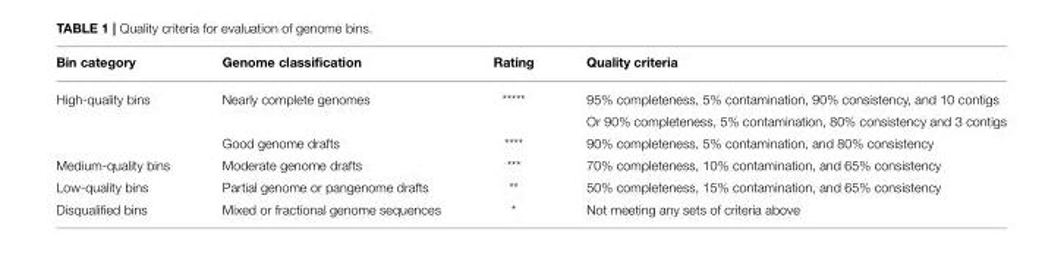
<table><thead><tr><td>Bin category</td><td>Genome classification</td><td>Rating</td><td>Quality criteria</td></tr></thead><tbody><tr><td rowspan="3">High-quality bins</td><td>Nearly complete genomes</td><td>*****</td><td>95% completeness, 5% contamination, 90% consistency, and 10 contigs</td></tr><tr><td></td><td></td><td>Or 90% completeness, 5% contamination, 80% consistency and 3 contigs</td></tr><tr><td>Good genome drafts</td><td>****</td><td>90% completeness, 5% contamination, and 80% consistency</td></tr><tr><td>Medium-quality bins</td><td>Moderate genome drafts</td><td>***</td><td>70% completeness, 10% contamination, and 65% consistency</td></tr><tr><td>Low-quality bins</td><td>Partial genome or pangenome drafts</td><td>**</td><td>50% completeness, 15% contamination, and 65% consistency</td></tr><tr><td>Disqualified bins</td><td>Mixed or fractional genome sequences</td><td>*</td><td>Not meeting any sets of criteria above</td></tr></tbody></table>